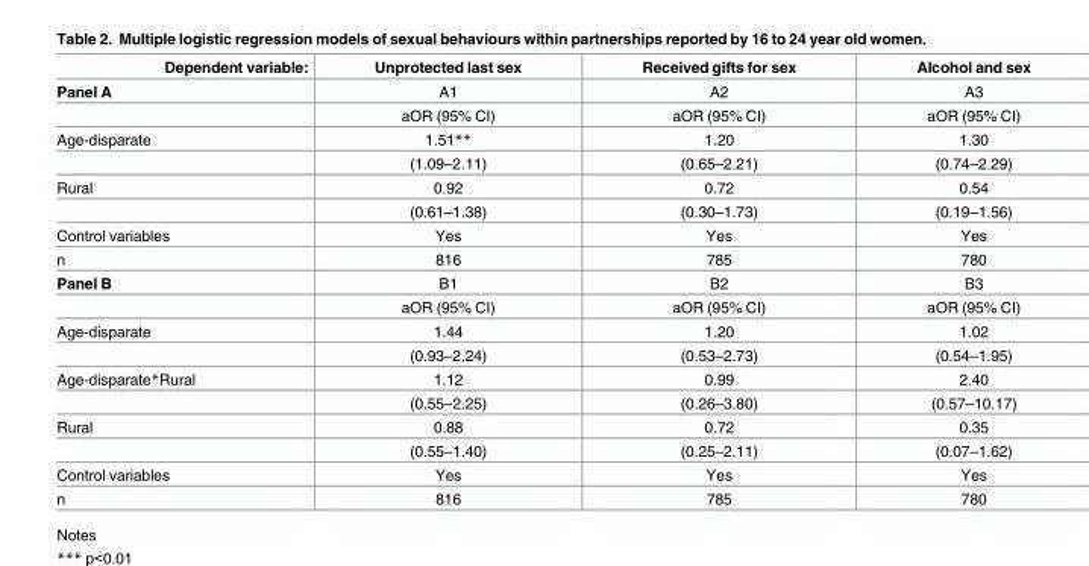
<table><thead><tr><td>Dependent variable:</td><td>Unprotected last sex</td><td>Received gifts for sex</td><td>Alcohol and sex</td></tr></thead><tbody><tr><td rowspan="2">Panel A</td><td>A1</td><td>A2</td><td>A3</td></tr><tr><td>aOR (95% CI)</td><td>aOR (95% CI)</td><td>aOR (95% CI)</td></tr><tr><td rowspan="2">Age-disparate</td><td>1.51**</td><td>1.20</td><td>1.30</td></tr><tr><td>(1.09–2.11)</td><td>(0.65–2.21)</td><td>(0.74–2.29)</td></tr><tr><td rowspan="2">Rural</td><td>0.92</td><td>0.72</td><td>0.54</td></tr><tr><td>(0.61–1.38)</td><td>(0.30–1.73)</td><td>(0.19–1.56)</td></tr><tr><td>Control variables</td><td>Yes</td><td>Yes</td><td>Yes</td></tr><tr><td>n</td><td>816</td><td>785</td><td>780</td></tr><tr><td rowspan="2">Panel B</td><td>B1</td><td>B2</td><td>B3</td></tr><tr><td>aOR (95% CI)</td><td>aOR (95% CI)</td><td>aOR (95% CI)</td></tr><tr><td rowspan="2">Age-disparate</td><td>1.44</td><td>1.20</td><td>1.02</td></tr><tr><td>(0.93–2.24)</td><td>(0.53–2.73)</td><td>(0.54–1.95)</td></tr><tr><td rowspan="2">Age-disparate*Rural</td><td>1.12</td><td>0.99</td><td>2.40</td></tr><tr><td>(0.55–2.25)</td><td>(0.26–3.80)</td><td>(0.57–10.17)</td></tr><tr><td rowspan="2">Rural</td><td>0.88</td><td>0.72</td><td>0.35</td></tr><tr><td>(0.55–1.40)</td><td>(0.25–2.11)</td><td>(0.07–1.62)</td></tr><tr><td>Control variables</td><td>Yes</td><td>Yes</td><td>Yes</td></tr><tr><td>n</td><td>816</td><td>785</td><td>780</td></tr></tbody></table>